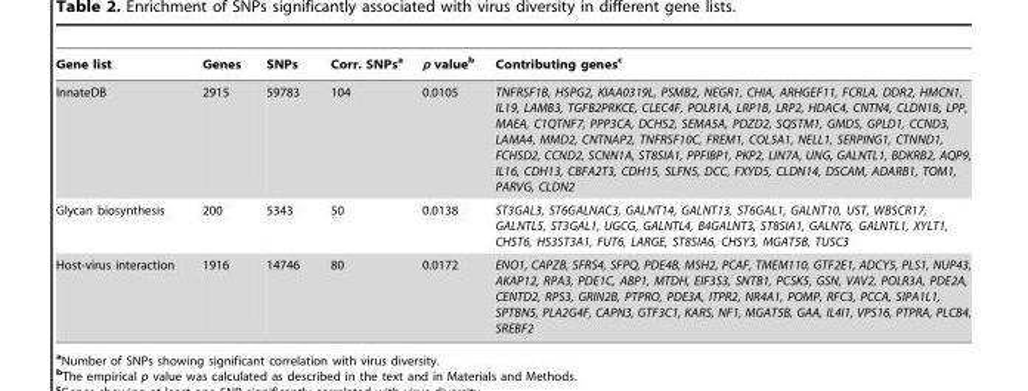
<table><thead><tr><td>Gene list</td><td>Genes</td><td>SNPs</td><td>Corr. SNPs<sup>a</sup></td><td>p value<sup>b</sup></td><td>Contributing genes<sup>c</sup></td></tr></thead><tbody><tr><td>InnateDB</td><td>2915</td><td>59783</td><td>104</td><td>0.0105</td><td>TNFRSF1B, HSPG2, KIAA0319L, PSMB2, NEGR1, CHIA, ARHGEF11, FCRLA, DDR2, HMCN1, IL19, LAMB3, TGFB2PRKCE, CLEC4F, POLR1A, LRP1B, LRP2, HDAC4, CNTN4, CLDN18, LPP, MAEA, C1QTNF7, PPP3CA, DCHS2, SEMA5A, PDZD2, SQSTM1, GMDS, GPLD1, CCND3, LAMA4, MMD2, CNTNAP2, TNFRSF10C, FREM1, COL5A1, NELL1, SERPING1, CTNND1, FCHSD2, CCND2, SCNN1A, ST8SIA1, PPFIBP1, PKP2, LIN7A, UNG, GALNTL1, BDKRB2, AQP9, IL16, CDH13, CBFA2T3, CDH15, SLFN5, DCC, FXYD5, CLDN14, DSCAM, ADARB1, TOM1, PARVG, CLDN2</td></tr><tr><td>Glycan biosynthesis</td><td>200</td><td>5343</td><td>50</td><td>0.0138</td><td>ST3GAL3, ST6GALNAC3, GALNT14, GALNT13, ST6GAL1, GALNT10, UST, WBSCR17, GALNTL5, ST3GAL1, UGCG, GALNTL4, B4GALNT3, ST8SIA1, GALNT6, GALNTL1, XYLT1, CHST6, HS3ST3A1, FUT6, LARGE, ST8SIA6, CHSY3, MGAT5B, TUSC3</td></tr><tr><td>Host-virus interaction</td><td>1916</td><td>14746</td><td>80</td><td>0.0172</td><td>ENO1, CAPZB, SFRS4, SFPQ, PDE4B, MSH2, PCAF, TMEM110, GTF2E1, ADCY5, PLS1, NUP43, AKAP12, RPA3, PDE1C, ABP1, MTDH, EIF3S3, SNTB1, PCSK5, GSN, VAV2, POLR3A, PDE2A, CENTD2, RPS3, GRIN2B, PTPRO, PDE3A, ITPR2, NR4A1, POMP, RFC3, PCCA, SIPA1L1, SPTBN5, PLA2G4F, CAPN3, GTF3C1, KARS, NF1, MGAT5B, GAA, IL4I1, VPS16, PTPRA, PLCB4, SREBF2</td></tr></tbody></table>